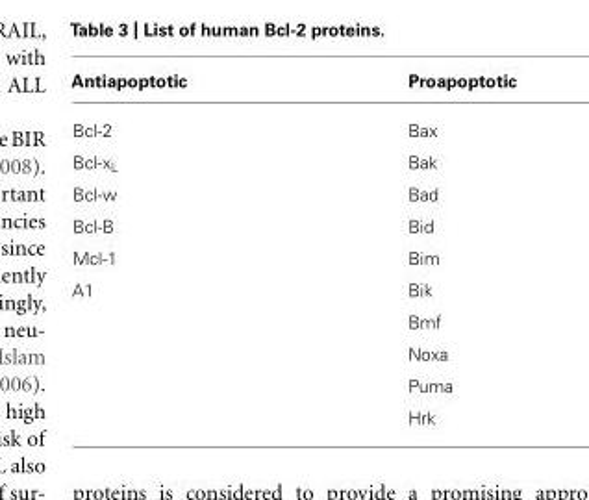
<table><thead><tr><td>Antiapoptotic</td><td>Proapoptotic</td></tr></thead><tbody><tr><td>Bcl-2</td><td>Bax</td></tr><tr><td>Bcl-x<sub>L</sub></td><td>Bak</td></tr><tr><td>Bcl-w</td><td>Bad</td></tr><tr><td>Bcl-B</td><td>Bid</td></tr><tr><td>Mcl-1</td><td>Bim</td></tr><tr><td rowspan="5">A1</td><td>Bik</td></tr><tr><td>Bmf</td></tr><tr><td>Noxa</td></tr><tr><td>Puma</td></tr><tr><td>Hrk</td></tr></tbody></table>